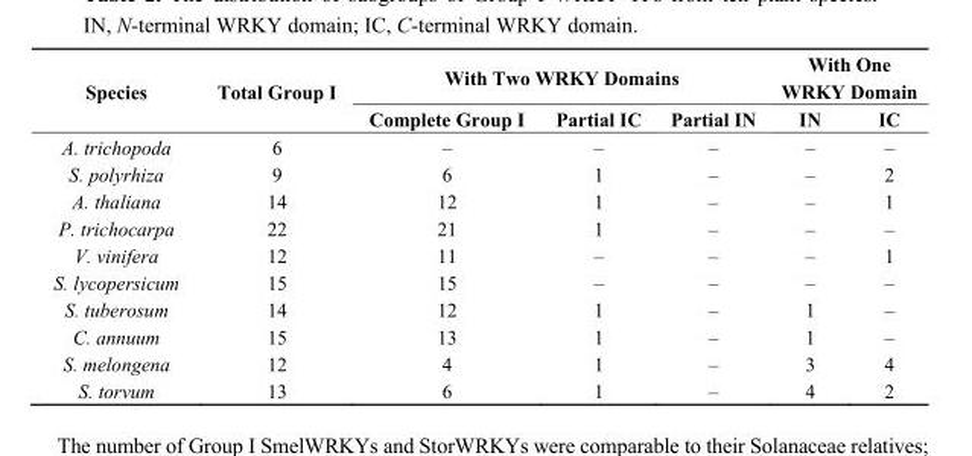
<table><thead><tr><td rowspan="2">Species</td><td rowspan="2">Total Group I</td><td colspan="3">With Two WRKY Domains</td><td colspan="2">With One WRKY Domain</td></tr><tr><td>Complete Group I</td><td>Partial IC</td><td>Partial IN</td><td>IN</td><td>IC</td></tr></thead><tbody><tr><td>A. trichopoda</td><td>6</td><td>–</td><td>–</td><td>–</td><td>–</td><td>–</td></tr><tr><td>S. polyrhiza</td><td>9</td><td>6</td><td>1</td><td>–</td><td>–</td><td>2</td></tr><tr><td>A. thaliana</td><td>14</td><td>12</td><td>1</td><td>–</td><td>–</td><td>1</td></tr><tr><td>P. trichocarpa</td><td>22</td><td>21</td><td>1</td><td>–</td><td>–</td><td>–</td></tr><tr><td>V. vinifera</td><td>12</td><td>11</td><td>–</td><td>–</td><td>–</td><td>1</td></tr><tr><td>S. lycopersicum</td><td>15</td><td>15</td><td>–</td><td>–</td><td>–</td><td>–</td></tr><tr><td>S. tuberosum</td><td>14</td><td>12</td><td>1</td><td>–</td><td>1</td><td>–</td></tr><tr><td>C. annuum</td><td>15</td><td>13</td><td>1</td><td>–</td><td>1</td><td>–</td></tr><tr><td>S. melongena</td><td>12</td><td>4</td><td>1</td><td>–</td><td>3</td><td>4</td></tr><tr><td>S. torvum</td><td>13</td><td>6</td><td>1</td><td>–</td><td>4</td><td>2</td></tr></tbody></table>